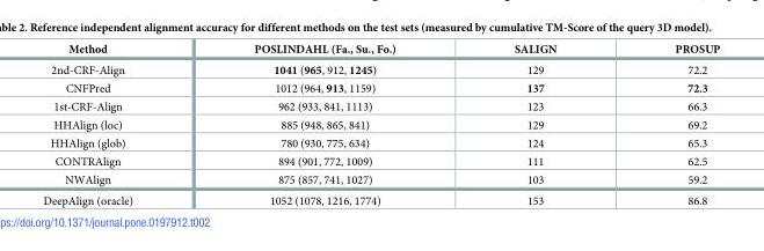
<table><thead><tr><td>Method</td><td>POSLINDAHL (Fa., Su., Fo.)</td><td>SALIGN</td><td>PROSUP</td></tr></thead><tbody><tr><td>2nd-CRF-Align</td><td>1041 (965, 912, 1245)</td><td>129</td><td>72.2</td></tr><tr><td>CNFPred</td><td>1012 (964, 913, 1159)</td><td>137</td><td>72.3</td></tr><tr><td>1st-CRF-Align</td><td>962 (933, 841, 1113)</td><td>123</td><td>66.3</td></tr><tr><td>HHAlign (loc)</td><td>885 (948, 865, 841)</td><td>129</td><td>69.2</td></tr><tr><td>HHAlign (glob)</td><td>780 (930, 775, 634)</td><td>124</td><td>65.3</td></tr><tr><td>CONTRAlign</td><td>894 (901, 772, 1009)</td><td>111</td><td>62.5</td></tr><tr><td>NWAlign</td><td>875 (857, 741, 1027)</td><td>103</td><td>59.2</td></tr><tr><td>DeepAlign (oracle)</td><td>1052 (1078, 1216, 1774)</td><td>153</td><td>86.8</td></tr></tbody></table>